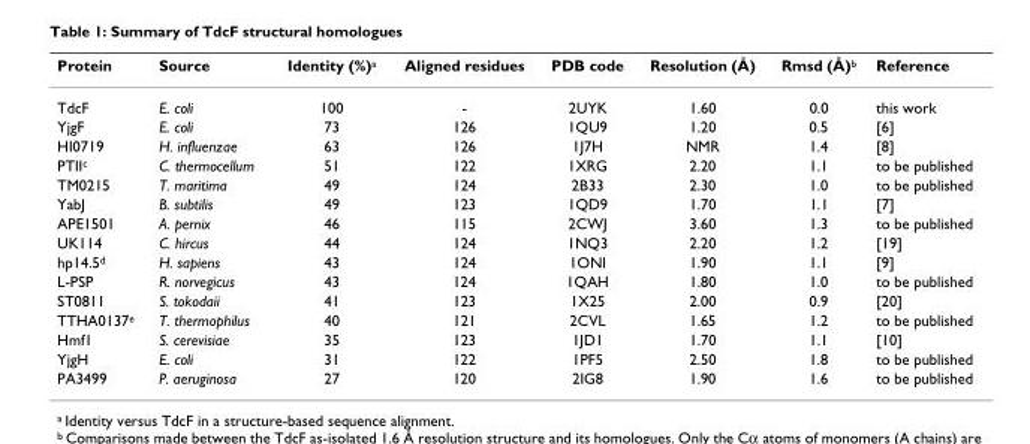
<table><thead><tr><td>Protein</td><td>Source</td><td>Identity (%)a</td><td>Aligned residues</td><td>PDB code</td><td>Resolution (Å)</td><td>Rmsd (Å)b</td><td>Reference</td></tr></thead><tbody><tr><td>TdcF</td><td>E. coli</td><td>100</td><td>-</td><td>2UYK</td><td>1.60</td><td>0.0</td><td>this work</td></tr><tr><td>YjgF</td><td>E. coli</td><td>73</td><td>126</td><td>1QU9</td><td>1.20</td><td>0.5</td><td>[6]</td></tr><tr><td>HI0719</td><td>H. influenzae</td><td>63</td><td>126</td><td>1J7H</td><td>NMR</td><td>1.4</td><td>[8]</td></tr><tr><td>PTIIc</td><td>C. thermocellum</td><td>51</td><td>122</td><td>1XRG</td><td>2.20</td><td>1.1</td><td>to be published</td></tr><tr><td>TM0215</td><td>T. maritima</td><td>49</td><td>124</td><td>2B33</td><td>2.30</td><td>1.0</td><td>to be published</td></tr><tr><td>YabJ</td><td>B. subtilis</td><td>49</td><td>123</td><td>1QD9</td><td>1.70</td><td>1.1</td><td>[7]</td></tr><tr><td>APE1501</td><td>A. pernix</td><td>46</td><td>115</td><td>2CWJ</td><td>3.60</td><td>1.3</td><td>to be published</td></tr><tr><td>UK114</td><td>C. hircus</td><td>44</td><td>124</td><td>1NQ3</td><td>2.20</td><td>1.2</td><td>[19]</td></tr><tr><td>hp14.5d</td><td>H. sapiens</td><td>43</td><td>124</td><td>1ONI</td><td>1.90</td><td>1.1</td><td>[9]</td></tr><tr><td>L-PSP</td><td>R. norvegicus</td><td>43</td><td>124</td><td>1QAH</td><td>1.80</td><td>1.0</td><td>to be published</td></tr><tr><td>ST0811</td><td>S. tokodaii</td><td>41</td><td>123</td><td>1X25</td><td>2.00</td><td>0.9</td><td>[20]</td></tr><tr><td>TTHA0137e</td><td>T. thermophilus</td><td>40</td><td>121</td><td>2CVL</td><td>1.65</td><td>1.2</td><td>to be published</td></tr><tr><td>Hmf1</td><td>S. cerevisiae</td><td>35</td><td>123</td><td>1JD1</td><td>1.70</td><td>1.1</td><td>[10]</td></tr><tr><td>YjgH</td><td>E. coli</td><td>31</td><td>122</td><td>1PF5</td><td>2.50</td><td>1.8</td><td>to be published</td></tr><tr><td>PA3499</td><td>P. aeruginosa</td><td>27</td><td>120</td><td>2IG8</td><td>1.90</td><td>1.6</td><td>to be published</td></tr></tbody></table>